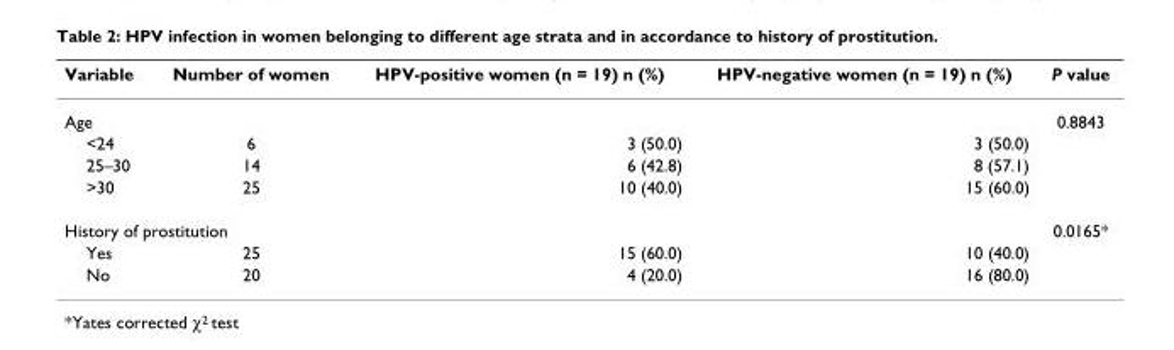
<table><thead><tr><td>Variable</td><td>Number of women</td><td>HPV-positive women (n = 19) n (%)</td><td>HPV-negative women (n = 19) n (%)</td><td>P value</td></tr></thead><tbody><tr><td colspan="4">Age</td><td>0.8843</td></tr><tr><td>&lt;24</td><td>6</td><td>3 (50.0)</td><td>3 (50.0)</td><td></td></tr><tr><td>25–30</td><td>14</td><td>6 (42.8)</td><td>8 (57.1)</td><td></td></tr><tr><td>&gt;30</td><td>25</td><td>10 (40.0)</td><td>15 (60.0)</td><td></td></tr><tr><td colspan="4">History of prostitution</td><td>0.0165*</td></tr><tr><td>Yes</td><td>25</td><td>15 (60.0)</td><td>10 (40.0)</td><td></td></tr><tr><td>No</td><td>20</td><td>4 (20.0)</td><td>16 (80.0)</td><td></td></tr></tbody></table>